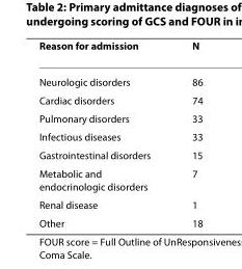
<table><thead><tr><td>Reason for admission</td><td>N</td></tr></thead><tbody><tr><td>Neurologic disorders</td><td>86</td></tr><tr><td>Cardiac disorders</td><td>74</td></tr><tr><td>Pulmonary disorders</td><td>33</td></tr><tr><td>Infectious diseases</td><td>33</td></tr><tr><td>Gastrointestinal disorders</td><td>15</td></tr><tr><td>Metabolic and endocrinologic disorders</td><td>7</td></tr><tr><td>Renal disease</td><td>1</td></tr><tr><td>Other</td><td>18</td></tr></tbody></table>